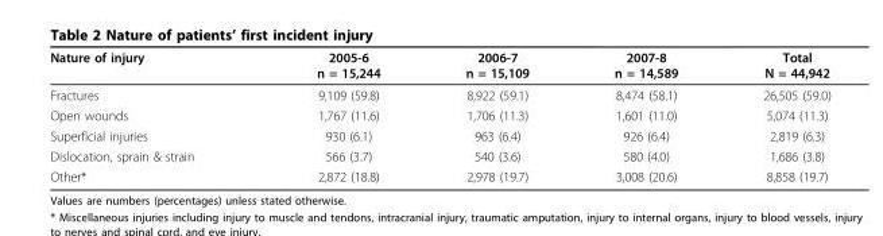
<table><thead><tr><td>Nature of injury</td><td>2005-6 n = 15,244</td><td>2006-7 n = 15,109</td><td>2007-8 n = 14,589</td><td>Total N = 44,942</td></tr></thead><tbody><tr><td>Fractures</td><td>9,109 (59.8)</td><td>8,922 (59.1)</td><td>8,474 (58.1)</td><td>26,505 (59.0)</td></tr><tr><td>Open wounds</td><td>1,767 (11.6)</td><td>1,706 (11.3)</td><td>1,601 (11.0)</td><td>5,074 (11.3)</td></tr><tr><td>Superficial injuries</td><td>930 (6.1)</td><td>963 (6.4)</td><td>926 (6.4)</td><td>2,819 (6.3)</td></tr><tr><td>Dislocation, sprain &amp; strain</td><td>566 (3.7)</td><td>540 (3.6)</td><td>580 (4.0)</td><td>1,686 (3.8)</td></tr><tr><td>Other*</td><td>2,872 (18.8)</td><td>2,978 (19.7)</td><td>3,008 (20.6)</td><td>8,858 (19.7)</td></tr></tbody></table>